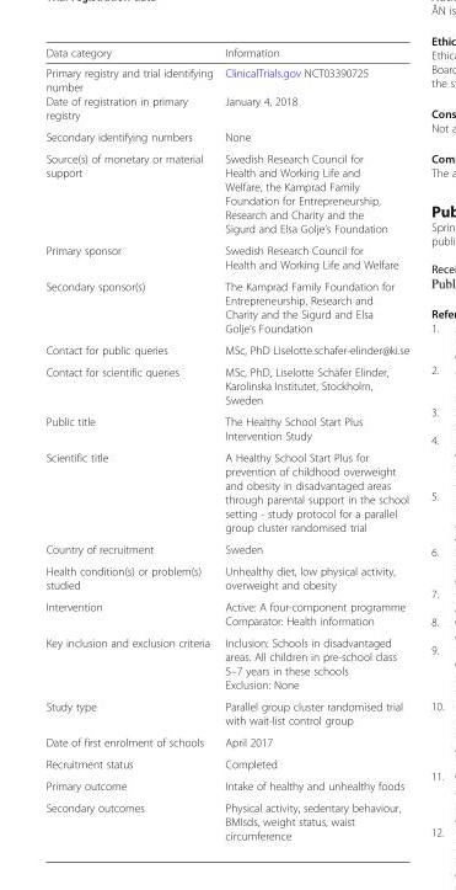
<table><thead><tr><td>Data category</td><td>Information</td></tr></thead><tbody><tr><td>Primary registry and trial identifying number</td><td>ClinicalTrials.gov NCT03390725</td></tr><tr><td>Date of registration in primary registry</td><td>January 4, 2018</td></tr><tr><td>Secondary identifying numbers</td><td>None</td></tr><tr><td>Source(s) of monetary or material support</td><td>Swedish Research Council for Health and Working Life and Welfare, the Kamprad Family Foundation for Entrepreneurship, Research and Charity and the Sigurd and Elsa Golje’s Foundation</td></tr><tr><td>Primary sponsor</td><td>Swedish Research Council for Health and Working Life and Welfare</td></tr><tr><td>Secondary sponsor(s)</td><td>The Kamprad Family Foundation for Entrepreneurship, Research and Charity and the Sigurd and Elsa Golje’s Foundation</td></tr><tr><td>Contact for public queries</td><td>MSc, PhD Liselotte.schafer-elinder@ki.se</td></tr><tr><td>Contact for scientific queries</td><td>MSc, PhD, Liselotte Schäfer Elinder, Karolinska Institutet, Stockholm, Sweden</td></tr><tr><td>Public title</td><td>The Healthy School Start Plus Intervention Study</td></tr><tr><td>Scientific title</td><td>A Healthy School Start Plus for prevention of childhood overweight and obesity in disadvantaged areas through parental support in the school setting - study protocol for a parallel group cluster randomised trial</td></tr><tr><td>Country of recruitment</td><td>Sweden</td></tr><tr><td>Health condition(s) or problem(s) studied</td><td>Unhealthy diet, low physical activity, overweight and obesity</td></tr><tr><td>Intervention</td><td>Active: A four-component programme Comparator: Health information</td></tr><tr><td>Key inclusion and exclusion criteria</td><td>Inclusion: Schools in disadvantaged areas. All children in pre-school class 5–7 years in these schools Exclusion: None</td></tr><tr><td>Study type</td><td>Parallel group cluster randomised trial with wait-list control group</td></tr><tr><td>Date of first enrolment of schools</td><td>April 2017</td></tr><tr><td>Recruitment status</td><td>Completed</td></tr><tr><td>Primary outcome</td><td>Intake of healthy and unhealthy foods</td></tr><tr><td>Secondary outcomes</td><td>Physical activity, sedentary behaviour, BMIsds, weight status, waist circumference</td></tr></tbody></table>